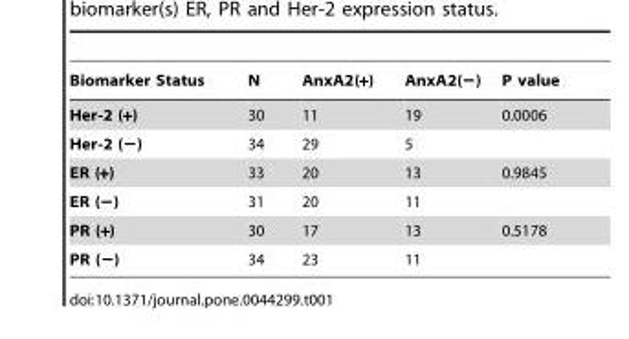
<table><thead><tr><td>Biomarker Status</td><td>N</td><td>AnxA2(+)</td><td>AnxA2(−)</td><td>P value</td></tr></thead><tbody><tr><td>Her-2 (+)</td><td>30</td><td>11</td><td>19</td><td>0.0006</td></tr><tr><td>Her-2 (−)</td><td>34</td><td>29</td><td>5</td><td></td></tr><tr><td>ER (+)</td><td>33</td><td>20</td><td>13</td><td>0.9845</td></tr><tr><td>ER (−)</td><td>31</td><td>20</td><td>11</td><td></td></tr><tr><td>PR (+)</td><td>30</td><td>17</td><td>13</td><td>0.5178</td></tr><tr><td>PR (−)</td><td>34</td><td>23</td><td>11</td><td></td></tr></tbody></table>